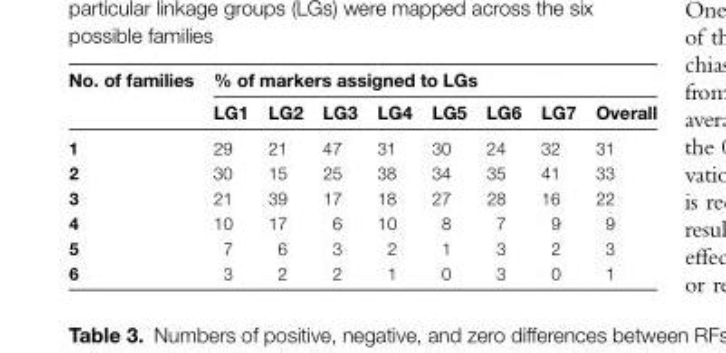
<table><thead><tr><td rowspan="2">No. of families</td><td colspan="8">% of markers assigned to LGs</td></tr><tr><td>LG1</td><td>LG2</td><td>LG3</td><td>LG4</td><td>LG5</td><td>LG6</td><td>LG7</td><td>Overall</td></tr></thead><tbody><tr><td>1</td><td>29</td><td>21</td><td>47</td><td>31</td><td>30</td><td>24</td><td>32</td><td>31</td></tr><tr><td>2</td><td>30</td><td>15</td><td>25</td><td>38</td><td>34</td><td>35</td><td>41</td><td>33</td></tr><tr><td>3</td><td>21</td><td>39</td><td>17</td><td>18</td><td>27</td><td>28</td><td>16</td><td>22</td></tr><tr><td>4</td><td>10</td><td>17</td><td>6</td><td>10</td><td>8</td><td>7</td><td>9</td><td>9</td></tr><tr><td>5</td><td>7</td><td>6</td><td>3</td><td>2</td><td>1</td><td>3</td><td>2</td><td>3</td></tr><tr><td>6</td><td>3</td><td>2</td><td>2</td><td>1</td><td>0</td><td>3</td><td>0</td><td>1</td></tr></tbody></table>